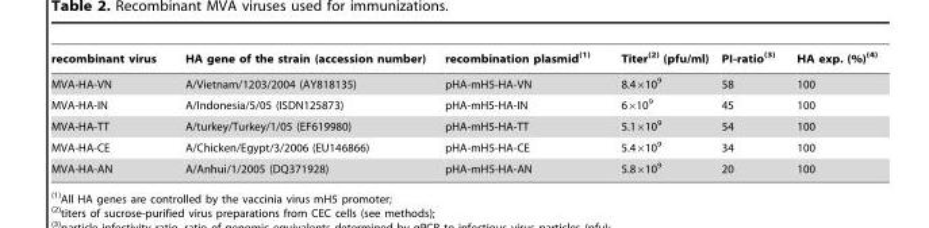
<table><thead><tr><td>recombinant virus</td><td>HA gene of the strain (accession number)</td><td>recombination plasmid(1)</td><td>Titer(2) (pfu/ml)</td><td>PI-ratio(3)</td><td>HA exp. (%)(4)</td></tr></thead><tbody><tr><td>MVA-HA-VN</td><td>A/Vietnam/1203/2004 (AY818135)</td><td>pHA-mH5-HA-VN</td><td>8.4×10<sup>9</sup></td><td>58</td><td>100</td></tr><tr><td>MVA-HA-IN</td><td>A/Indonesia/5/05 (ISDN125873)</td><td>pHA-mH5-HA-IN</td><td>6×10<sup>9</sup></td><td>45</td><td>100</td></tr><tr><td>MVA-HA-TT</td><td>A/turkey/Turkey/1/05 (EF619980)</td><td>pHA-mH5-HA-TT</td><td>5.1×10<sup>9</sup></td><td>54</td><td>100</td></tr><tr><td>MVA-HA-CE</td><td>A/Chicken/Egypt/3/2006 (EU146866)</td><td>pHA-mH5-HA-CE</td><td>5.4×10<sup>9</sup></td><td>34</td><td>100</td></tr><tr><td>MVA-HA-AN</td><td>A/Anhui/1/2005 (DQ371928)</td><td>pHA-mH5-HA-AN</td><td>5.8×10<sup>9</sup></td><td>20</td><td>100</td></tr></tbody></table>